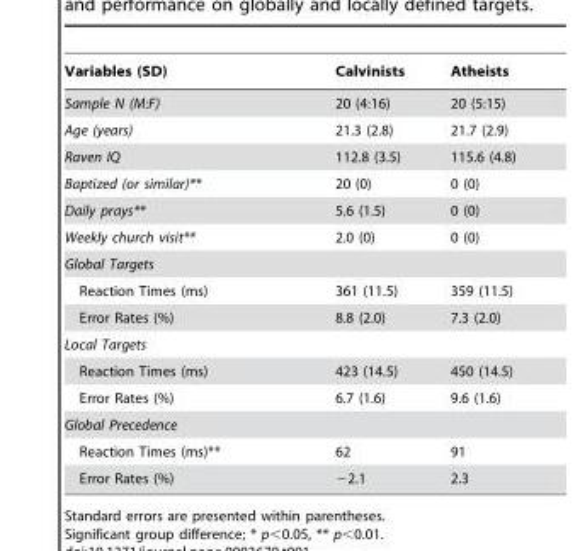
<table><thead><tr><td>Variables (SD)</td><td>Calvinists</td><td>Atheists</td></tr></thead><tbody><tr><td>Sample N (M:F)</td><td>20 (4:16)</td><td>20 (5:15)</td></tr><tr><td>Age (years)</td><td>21.3 (2.8)</td><td>21.7 (2.9)</td></tr><tr><td>Raven IQ</td><td>112.8 (3.5)</td><td>115.6 (4.8)</td></tr><tr><td>Baptized (or similar)**</td><td>20 (0)</td><td>0 (0)</td></tr><tr><td>Daily prays**</td><td>5.6 (1.5)</td><td>0 (0)</td></tr><tr><td>Weekly church visit**</td><td>2.0 (0)</td><td>0 (0)</td></tr><tr><td colspan="3">Global Targets</td></tr><tr><td>Reaction Times (ms)</td><td>361 (11.5)</td><td>359 (11.5)</td></tr><tr><td>Error Rates (%)</td><td>8.8 (2.0)</td><td>7.3 (2.0)</td></tr><tr><td colspan="3">Local Targets</td></tr><tr><td>Reaction Times (ms)</td><td>423 (14.5)</td><td>450 (14.5)</td></tr><tr><td>Error Rates (%)</td><td>6.7 (1.6)</td><td>9.6 (1.6)</td></tr><tr><td colspan="3">Global Precedence</td></tr><tr><td>Reaction Times (ms)**</td><td>62</td><td>91</td></tr><tr><td>Error Rates (%)</td><td>−2.1</td><td>2.3</td></tr></tbody></table>